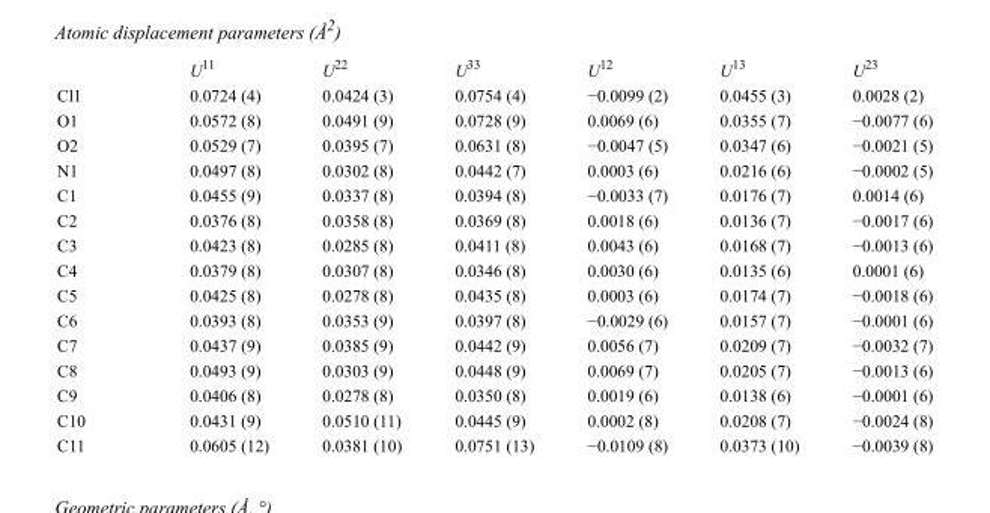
<table><thead><tr><td></td><td>U<sup>11</sup></td><td>U<sup>22</sup></td><td>U<sup>33</sup></td><td>U<sup>12</sup></td><td>U<sup>13</sup></td><td>U<sup>23</sup></td></tr></thead><tbody><tr><td>Cl1</td><td>0.0724 (4)</td><td>0.0424 (3)</td><td>0.0754 (4)</td><td>−0.0099 (2)</td><td>0.0455 (3)</td><td>0.0028 (2)</td></tr><tr><td>O1</td><td>0.0572 (8)</td><td>0.0491 (9)</td><td>0.0728 (9)</td><td>0.0069 (6)</td><td>0.0355 (7)</td><td>−0.0077 (6)</td></tr><tr><td>O2</td><td>0.0529 (7)</td><td>0.0395 (7)</td><td>0.0631 (8)</td><td>−0.0047 (5)</td><td>0.0347 (6)</td><td>−0.0021 (5)</td></tr><tr><td>N1</td><td>0.0497 (8)</td><td>0.0302 (8)</td><td>0.0442 (7)</td><td>0.0003 (6)</td><td>0.0216 (6)</td><td>−0.0002 (5)</td></tr><tr><td>C1</td><td>0.0455 (9)</td><td>0.0337 (8)</td><td>0.0394 (8)</td><td>−0.0033 (7)</td><td>0.0176 (7)</td><td>0.0014 (6)</td></tr><tr><td>C2</td><td>0.0376 (8)</td><td>0.0358 (8)</td><td>0.0369 (8)</td><td>0.0018 (6)</td><td>0.0136 (7)</td><td>−0.0017 (6)</td></tr><tr><td>C3</td><td>0.0423 (8)</td><td>0.0285 (8)</td><td>0.0411 (8)</td><td>0.0043 (6)</td><td>0.0168 (7)</td><td>−0.0013 (6)</td></tr><tr><td>C4</td><td>0.0379 (8)</td><td>0.0307 (8)</td><td>0.0346 (8)</td><td>0.0030 (6)</td><td>0.0135 (6)</td><td>0.0001 (6)</td></tr><tr><td>C5</td><td>0.0425 (8)</td><td>0.0278 (8)</td><td>0.0435 (8)</td><td>0.0003 (6)</td><td>0.0174 (7)</td><td>−0.0018 (6)</td></tr><tr><td>C6</td><td>0.0393 (8)</td><td>0.0353 (9)</td><td>0.0397 (8)</td><td>−0.0029 (6)</td><td>0.0157 (7)</td><td>−0.0001 (6)</td></tr><tr><td>C7</td><td>0.0437 (9)</td><td>0.0385 (9)</td><td>0.0442 (9)</td><td>0.0056 (7)</td><td>0.0209 (7)</td><td>−0.0032 (7)</td></tr><tr><td>C8</td><td>0.0493 (9)</td><td>0.0303 (9)</td><td>0.0448 (9)</td><td>0.0069 (7)</td><td>0.0205 (7)</td><td>−0.0013 (6)</td></tr><tr><td>C9</td><td>0.0406 (8)</td><td>0.0278 (8)</td><td>0.0350 (8)</td><td>0.0019 (6)</td><td>0.0138 (6)</td><td>−0.0001 (6)</td></tr><tr><td>C10</td><td>0.0431 (9)</td><td>0.0510 (11)</td><td>0.0445 (9)</td><td>0.0002 (8)</td><td>0.0208 (7)</td><td>−0.0024 (8)</td></tr><tr><td>C11</td><td>0.0605 (12)</td><td>0.0381 (10)</td><td>0.0751 (13)</td><td>−0.0109 (8)</td><td>0.0373 (10)</td><td>−0.0039 (8)</td></tr></tbody></table>